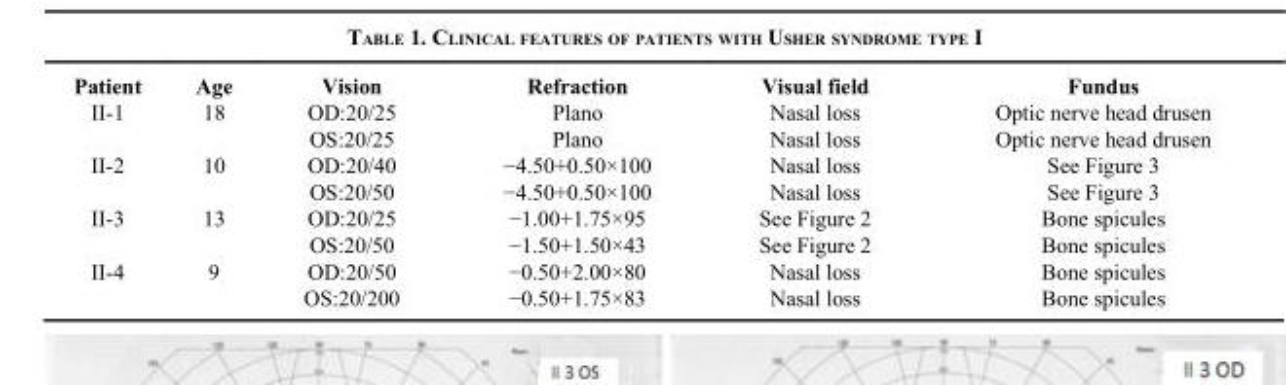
<table><thead><tr><td>Patient</td><td>Age</td><td>Vision</td><td>Refraction</td><td>Visual field</td><td>Fundus</td></tr></thead><tbody><tr><td rowspan="2">II-1</td><td>18</td><td>OD:20/25</td><td>Plano</td><td>Nasal loss</td><td>Optic nerve head drusen</td></tr><tr><td></td><td>OS:20/25</td><td>Plano</td><td>Nasal loss</td><td>Optic nerve head drusen</td></tr><tr><td rowspan="2">II-2</td><td>10</td><td>OD:20/40</td><td>−4.50+0.50×100</td><td>Nasal loss</td><td>See Figure 3</td></tr><tr><td></td><td>OS:20/50</td><td>−4.50+0.50×100</td><td>Nasal loss</td><td>See Figure 3</td></tr><tr><td rowspan="2">II-3</td><td>13</td><td>OD:20/25</td><td>−1.00+1.75×95</td><td>See Figure 2</td><td>Bone spicules</td></tr><tr><td></td><td>OS:20/50</td><td>−1.50+1.50×43</td><td>See Figure 2</td><td>Bone spicules</td></tr><tr><td rowspan="2">II-4</td><td>9</td><td>OD:20/50</td><td>−0.50+2.00×80</td><td>Nasal loss</td><td>Bone spicules</td></tr><tr><td></td><td>OS:20/200</td><td>−0.50+1.75×83</td><td>Nasal loss</td><td>Bone spicules</td></tr></tbody></table>